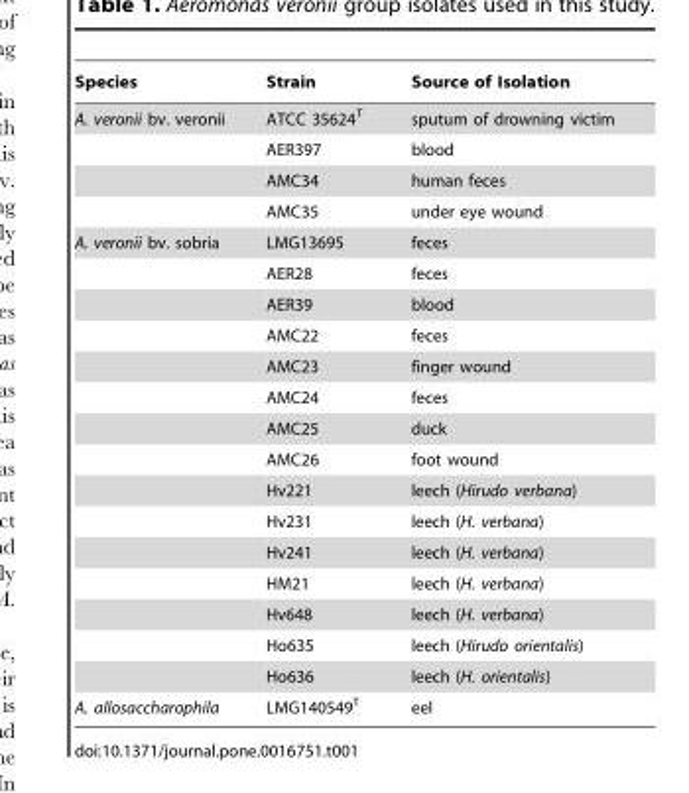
<table><thead><tr><td>Species</td><td>Strain</td><td>Source of Isolation</td></tr></thead><tbody><tr><td rowspan="4">A. veronii bv. veronii</td><td>ATCC 35624<sup>T</sup></td><td>sputum of drowning victim</td></tr><tr><td>AER397</td><td>blood</td></tr><tr><td>AMC34</td><td>human feces</td></tr><tr><td>AMC35</td><td>under eye wound</td></tr><tr><td rowspan="15">A. veronii bv. sobria</td><td>LMG13695</td><td>feces</td></tr><tr><td>AER28</td><td>feces</td></tr><tr><td>AER39</td><td>blood</td></tr><tr><td>AMC22</td><td>feces</td></tr><tr><td>AMC23</td><td>finger wound</td></tr><tr><td>AMC24</td><td>feces</td></tr><tr><td>AMC25</td><td>duck</td></tr><tr><td>AMC26</td><td>foot wound</td></tr><tr><td>Hv221</td><td>leech (Hirudo verbana)</td></tr><tr><td>Hv231</td><td>leech (H. verbana)</td></tr><tr><td>Hv241</td><td>leech (H. verbana)</td></tr><tr><td>HM21</td><td>leech (H. verbana)</td></tr><tr><td>Hv648</td><td>leech (H. verbana)</td></tr><tr><td>Ho635</td><td>leech (Hirudo orientalis)</td></tr><tr><td>Ho636</td><td>leech (H. orientalis)</td></tr><tr><td>A. allosaccharophila</td><td>LMG140549<sup>T</sup></td><td>eel</td></tr></tbody></table>